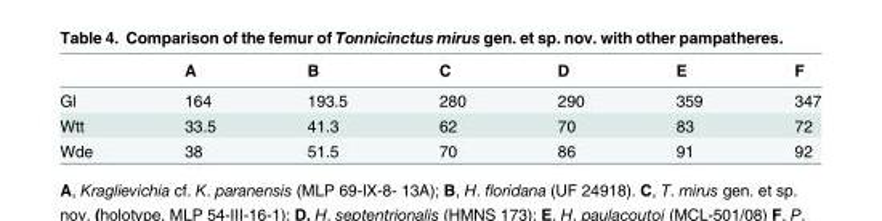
<table><thead><tr><td></td><td>A</td><td>B</td><td>C</td><td>D</td><td>E</td><td>F</td></tr></thead><tbody><tr><td>Gl</td><td>164</td><td>193.5</td><td>280</td><td>290</td><td>359</td><td>347</td></tr><tr><td>Wtt</td><td>33.5</td><td>41.3</td><td>62</td><td>70</td><td>83</td><td>72</td></tr><tr><td>Wde</td><td>38</td><td>51.5</td><td>70</td><td>86</td><td>91</td><td>92</td></tr></tbody></table>